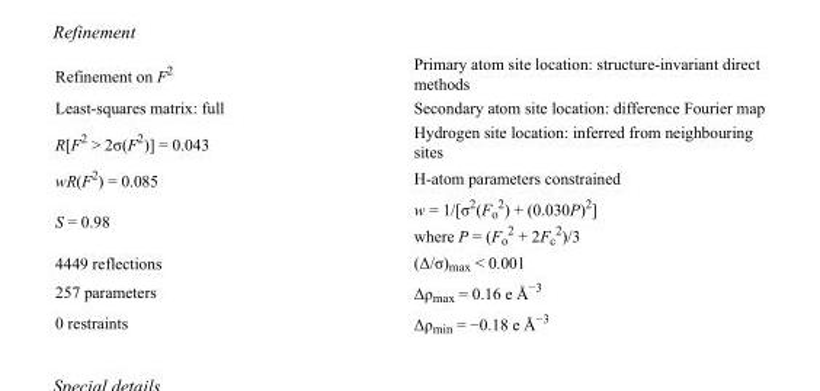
<table><tbody><tr><td>Refinement on F<sup>2</sup></td><td>Primary atom site location: structure-invariant direct methods</td></tr><tr><td>Least-squares matrix: full</td><td>Secondary atom site location: difference Fourier map</td></tr><tr><td>R[F<sup>2</sup> &gt; 2σ(F<sup>2</sup>)] = 0.043</td><td>Hydrogen site location: inferred from neighbouring sites</td></tr><tr><td>wR(F<sup>2</sup>) = 0.085</td><td>H-atom parameters constrained</td></tr><tr><td>S = 0.98</td><td>w = 1/[σ<sup>2</sup>(F<sub>o</sub> <sup>2</sup>) + (0.030P)<sup>2</sup>] where P = (F<sub>o</sub> <sup>2</sup> + 2F<sub>c</sub> <sup>2</sup>)/3</td></tr><tr><td>4449 reflections</td><td>(Δ/σ)<sub>max</sub> &lt; 0.001</td></tr><tr><td>257 parameters</td><td>Δρ<sub>max</sub> = 0.16 e Å<sup>−3</sup></td></tr><tr><td>0 restraints</td><td>Δρ<sub>min</sub> = −0.18 e Å<sup>−3</sup></td></tr></tbody></table>